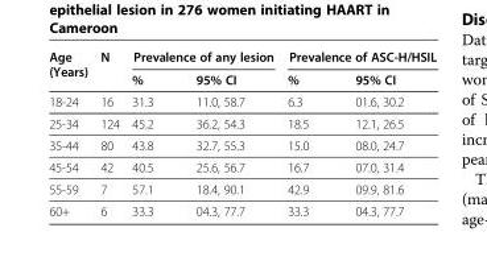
<table><thead><tr><td rowspan="2">Age (Years)</td><td rowspan="2">N</td><td colspan="2">Prevalence of any lesion</td><td colspan="2">Prevalence of ASC-H/HSIL</td></tr><tr><td>%</td><td>95% CI</td><td>%</td><td>95% CI</td></tr></thead><tbody><tr><td>18-24</td><td>16</td><td>31.3</td><td>11.0, 58.7</td><td>6.3</td><td>01.6, 30.2</td></tr><tr><td>25-34</td><td>124</td><td>45.2</td><td>36.2, 54.3</td><td>18.5</td><td>12.1, 26.5</td></tr><tr><td>35-44</td><td>80</td><td>43.8</td><td>32.7, 55.3</td><td>15.0</td><td>08.0, 24.7</td></tr><tr><td>45-54</td><td>42</td><td>40.5</td><td>25.6, 56.7</td><td>16.7</td><td>07.0, 31.4</td></tr><tr><td>55-59</td><td>7</td><td>57.1</td><td>18.4, 90.1</td><td>42.9</td><td>09.9, 81.6</td></tr><tr><td>60+</td><td>6</td><td>33.3</td><td>04.3, 77.7</td><td>33.3</td><td>04.3, 77.7</td></tr></tbody></table>